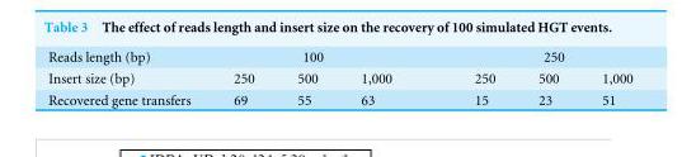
<table><tbody><tr><td>Reads length (bp)</td><td colspan="3">100</td><td colspan="3">250</td></tr><tr><td>Insert size (bp)</td><td>250</td><td>500</td><td>1,000</td><td>250</td><td>500</td><td>1,000</td></tr><tr><td>Recovered gene transfers</td><td>69</td><td>55</td><td>63</td><td>15</td><td>23</td><td>51</td></tr></tbody></table>